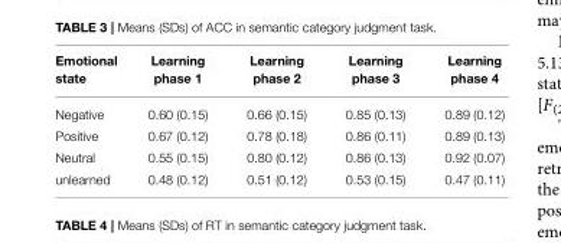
<table><thead><tr><td>Emotional state</td><td>Learning phase 1</td><td>Learning phase 2</td><td>Learning phase 3</td><td>Learning phase 4</td></tr></thead><tbody><tr><td>Negative</td><td>0.60 (0.15)</td><td>0.66 (0.15)</td><td>0.85 (0.13)</td><td>0.89 (0.12)</td></tr><tr><td>Positive</td><td>0.67 (0.12)</td><td>0.78 (0.18)</td><td>0.86 (0.11)</td><td>0.89 (0.13)</td></tr><tr><td>Neutral</td><td>0.55 (0.15)</td><td>0.80 (0.12)</td><td>0.86 (0.13)</td><td>0.92 (0.07)</td></tr><tr><td>unlearned</td><td>0.48 (0.12)</td><td>0.51 (0.12)</td><td>0.53 (0.15)</td><td>0.47 (0.11)</td></tr></tbody></table>